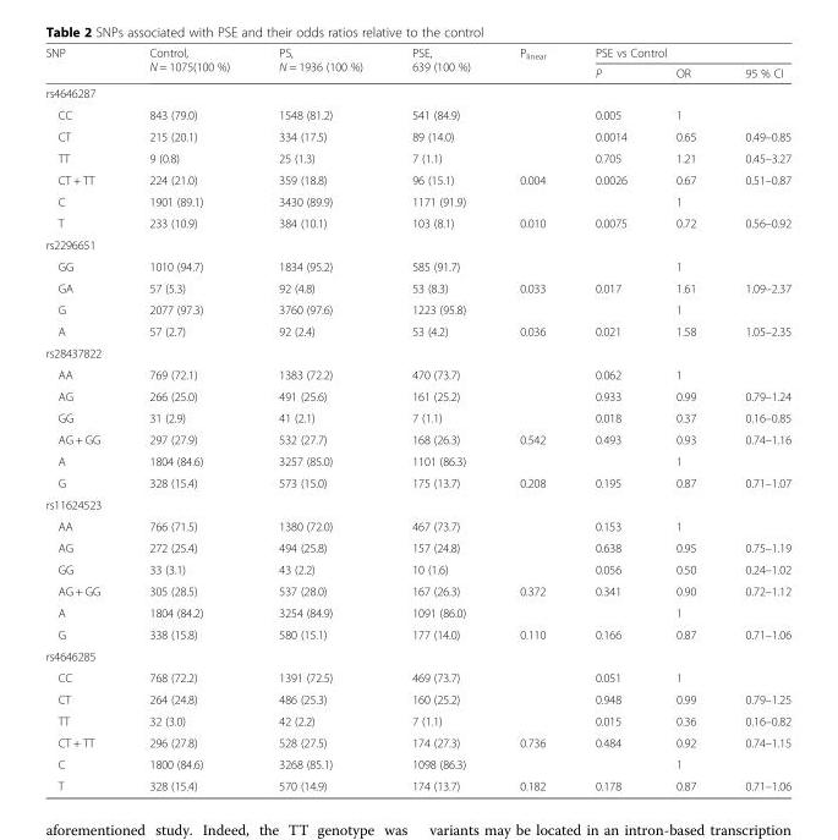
<table><thead><tr><td rowspan="2">SNP</td><td rowspan="2">Control, N = 1075(100 %)</td><td rowspan="2">PS, N = 1936 (100 %)</td><td rowspan="2">PSE, 639 (100 %)</td><td rowspan="2">P<sub>linear</sub></td><td colspan="3">PSE vs Control</td></tr><tr><td>P</td><td>OR</td><td>95 % CI</td></tr></thead><tbody><tr><td colspan="8">rs4646287</td></tr><tr><td>CC</td><td>843 (79.0)</td><td>1548 (81.2)</td><td>541 (84.9)</td><td></td><td>0.005</td><td>1</td><td></td></tr><tr><td>CT</td><td>215 (20.1)</td><td>334 (17.5)</td><td>89 (14.0)</td><td></td><td>0.0014</td><td>0.65</td><td>0.49–0.85</td></tr><tr><td>TT</td><td>9 (0.8)</td><td>25 (1.3)</td><td>7 (1.1)</td><td></td><td>0.705</td><td>1.21</td><td>0.45–3.27</td></tr><tr><td>CT + TT</td><td>224 (21.0)</td><td>359 (18.8)</td><td>96 (15.1)</td><td>0.004</td><td>0.0026</td><td>0.67</td><td>0.51–0.87</td></tr><tr><td>C</td><td>1901 (89.1)</td><td>3430 (89.9)</td><td>1171 (91.9)</td><td></td><td></td><td>1</td><td></td></tr><tr><td>T</td><td>233 (10.9)</td><td>384 (10.1)</td><td>103 (8.1)</td><td>0.010</td><td>0.0075</td><td>0.72</td><td>0.56–0.92</td></tr><tr><td colspan="8">rs2296651</td></tr><tr><td>GG</td><td>1010 (94.7)</td><td>1834 (95.2)</td><td>585 (91.7)</td><td></td><td></td><td>1</td><td></td></tr><tr><td>GA</td><td>57 (5.3)</td><td>92 (4.8)</td><td>53 (8.3)</td><td>0.033</td><td>0.017</td><td>1.61</td><td>1.09–2.37</td></tr><tr><td>G</td><td>2077 (97.3)</td><td>3760 (97.6)</td><td>1223 (95.8)</td><td></td><td></td><td>1</td><td></td></tr><tr><td>A</td><td>57 (2.7)</td><td>92 (2.4)</td><td>53 (4.2)</td><td>0.036</td><td>0.021</td><td>1.58</td><td>1.05–2.35</td></tr><tr><td colspan="8">rs28437822</td></tr><tr><td>AA</td><td>769 (72.1)</td><td>1383 (72.2)</td><td>470 (73.7)</td><td></td><td>0.062</td><td>1</td><td></td></tr><tr><td>AG</td><td>266 (25.0)</td><td>491 (25.6)</td><td>161 (25.2)</td><td></td><td>0.933</td><td>0.99</td><td>0.79–1.24</td></tr><tr><td>GG</td><td>31 (2.9)</td><td>41 (2.1)</td><td>7 (1.1)</td><td></td><td>0.018</td><td>0.37</td><td>0.16–0.85</td></tr><tr><td>AG + GG</td><td>297 (27.9)</td><td>532 (27.7)</td><td>168 (26.3)</td><td>0.542</td><td>0.493</td><td>0.93</td><td>0.74–1.16</td></tr><tr><td>A</td><td>1804 (84.6)</td><td>3257 (85.0)</td><td>1101 (86.3)</td><td></td><td></td><td>1</td><td></td></tr><tr><td>G</td><td>328 (15.4)</td><td>573 (15.0)</td><td>175 (13.7)</td><td>0.208</td><td>0.195</td><td>0.87</td><td>0.71–1.07</td></tr><tr><td colspan="8">rs11624523</td></tr><tr><td>AA</td><td>766 (71.5)</td><td>1380 (72.0)</td><td>467 (73.7)</td><td></td><td>0.153</td><td>1</td><td></td></tr><tr><td>AG</td><td>272 (25.4)</td><td>494 (25.8)</td><td>157 (24.8)</td><td></td><td>0.638</td><td>0.95</td><td>0.75–1.19</td></tr><tr><td>GG</td><td>33 (3.1)</td><td>43 (2.2)</td><td>10 (1.6)</td><td></td><td>0.056</td><td>0.50</td><td>0.24–1.02</td></tr><tr><td>AG + GG</td><td>305 (28.5)</td><td>537 (28.0)</td><td>167 (26.3)</td><td>0.372</td><td>0.341</td><td>0.90</td><td>0.72–1.12</td></tr><tr><td>A</td><td>1804 (84.2)</td><td>3254 (84.9)</td><td>1091 (86.0)</td><td></td><td></td><td>1</td><td></td></tr><tr><td>G</td><td>338 (15.8)</td><td>580 (15.1)</td><td>177 (14.0)</td><td>0.110</td><td>0.166</td><td>0.87</td><td>0.71–1.06</td></tr><tr><td colspan="8">rs4646285</td></tr><tr><td>CC</td><td>768 (72.2)</td><td>1391 (72.5)</td><td>469 (73.7)</td><td></td><td>0.051</td><td>1</td><td></td></tr><tr><td>CT</td><td>264 (24.8)</td><td>486 (25.3)</td><td>160 (25.2)</td><td></td><td>0.948</td><td>0.99</td><td>0.79–1.25</td></tr><tr><td>TT</td><td>32 (3.0)</td><td>42 (2.2)</td><td>7 (1.1)</td><td></td><td>0.015</td><td>0.36</td><td>0.16–0.82</td></tr><tr><td>CT + TT</td><td>296 (27.8)</td><td>528 (27.5)</td><td>174 (27.3)</td><td>0.736</td><td>0.484</td><td>0.92</td><td>0.74–1.15</td></tr><tr><td>C</td><td>1800 (84.6)</td><td>3268 (85.1)</td><td>1098 (86.3)</td><td></td><td></td><td>1</td><td></td></tr><tr><td>T</td><td>328 (15.4)</td><td>570 (14.9)</td><td>174 (13.7)</td><td>0.182</td><td>0.178</td><td>0.87</td><td>0.71–1.06</td></tr></tbody></table>